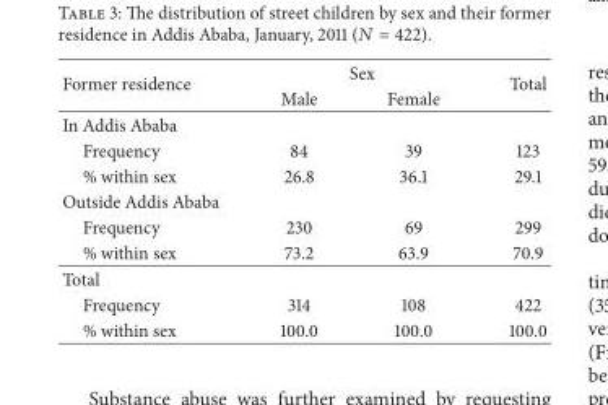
<table><thead><tr><td rowspan="2">Former residence</td><td colspan="2">Sex</td><td rowspan="2">Total</td></tr><tr><td>Male</td><td>Female</td></tr></thead><tbody><tr><td colspan="4">In Addis Ababa</td></tr><tr><td>Frequency</td><td>84</td><td>39</td><td>123</td></tr><tr><td>% within sex</td><td>26.8</td><td>36.1</td><td>29.1</td></tr><tr><td colspan="4">Outside Addis Ababa</td></tr><tr><td>Frequency</td><td>230</td><td>69</td><td>299</td></tr><tr><td>% within sex</td><td>73.2</td><td>63.9</td><td>70.9</td></tr><tr><td colspan="4">Total</td></tr><tr><td>Frequency</td><td>314</td><td>108</td><td>422</td></tr><tr><td>% within sex</td><td>100.0</td><td>100.0</td><td>100.0</td></tr></tbody></table>